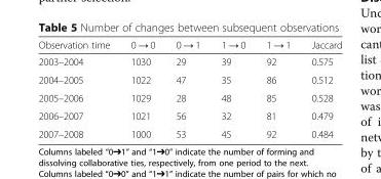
<table><thead><tr><td>Observation time</td><td>0 → 0</td><td>0 → 1</td><td>1 → 0</td><td>1 → 1</td><td>Jaccard</td></tr></thead><tbody><tr><td>2003–2004</td><td>1030</td><td>29</td><td>39</td><td>92</td><td>0.575</td></tr><tr><td>2004–2005</td><td>1022</td><td>47</td><td>35</td><td>86</td><td>0.512</td></tr><tr><td>2005–2006</td><td>1029</td><td>28</td><td>48</td><td>85</td><td>0.528</td></tr><tr><td>2006–2007</td><td>1021</td><td>56</td><td>32</td><td>81</td><td>0.479</td></tr><tr><td>2007–2008</td><td>1000</td><td>53</td><td>45</td><td>92</td><td>0.484</td></tr></tbody></table>